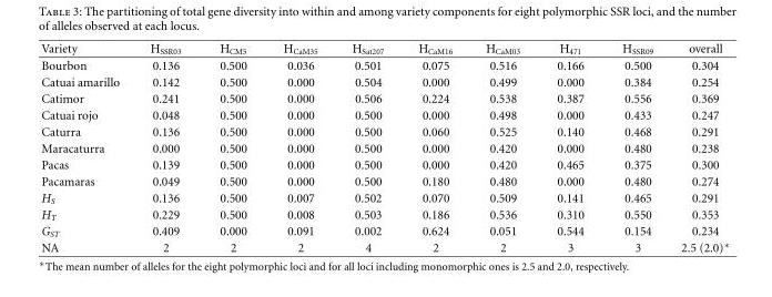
<table><thead><tr><td>Variety</td><td>H<sub>SSR03</sub></td><td>H<sub>CM5</sub></td><td>H<sub>CaM35</sub></td><td>H<sub>Sat207</sub></td><td>H<sub>CaM16</sub></td><td>H<sub>CaM03</sub></td><td>H<sub>471</sub></td><td>H<sub>SSR09</sub></td><td>overall</td></tr></thead><tbody><tr><td>Bourbon</td><td>0.136</td><td>0.500</td><td>0.036</td><td>0.501</td><td>0.075</td><td>0.516</td><td>0.166</td><td>0.500</td><td>0.304</td></tr><tr><td>Catuai amarillo</td><td>0.142</td><td>0.500</td><td>0.000</td><td>0.504</td><td>0.000</td><td>0.499</td><td>0.000</td><td>0.384</td><td>0.254</td></tr><tr><td>Catimor</td><td>0.241</td><td>0.500</td><td>0.000</td><td>0.506</td><td>0.224</td><td>0.538</td><td>0.387</td><td>0.556</td><td>0.369</td></tr><tr><td>Catuai rojo</td><td>0.048</td><td>0.500</td><td>0.000</td><td>0.500</td><td>0.000</td><td>0.498</td><td>0.000</td><td>0.433</td><td>0.247</td></tr><tr><td>Caturra</td><td>0.136</td><td>0.500</td><td>0.000</td><td>0.500</td><td>0.060</td><td>0.525</td><td>0.140</td><td>0.468</td><td>0.291</td></tr><tr><td>Maracaturra</td><td>0.000</td><td>0.500</td><td>0.000</td><td>0.500</td><td>0.000</td><td>0.420</td><td>0.000</td><td>0.480</td><td>0.238</td></tr><tr><td>Pacas</td><td>0.139</td><td>0.500</td><td>0.000</td><td>0.500</td><td>0.000</td><td>0.420</td><td>0.465</td><td>0.375</td><td>0.300</td></tr><tr><td>Pacamaras</td><td>0.049</td><td>0.500</td><td>0.000</td><td>0.500</td><td>0.180</td><td>0.480</td><td>0.000</td><td>0.480</td><td>0.274</td></tr><tr><td>H<sub>S</sub></td><td>0.136</td><td>0.500</td><td>0.007</td><td>0.502</td><td>0.070</td><td>0.509</td><td>0.141</td><td>0.465</td><td>0.291</td></tr><tr><td>H<sub>T</sub></td><td>0.229</td><td>0.500</td><td>0.008</td><td>0.503</td><td>0.186</td><td>0.536</td><td>0.310</td><td>0.550</td><td>0.353</td></tr><tr><td>G<sub>ST</sub></td><td>0.409</td><td>0.000</td><td>0.091</td><td>0.002</td><td>0.624</td><td>0.051</td><td>0.544</td><td>0.154</td><td>0.234</td></tr><tr><td>NA</td><td>2</td><td>2</td><td>2</td><td>4</td><td>2</td><td>2</td><td>3</td><td>3</td><td>2.5 (2.0)∗</td></tr></tbody></table>